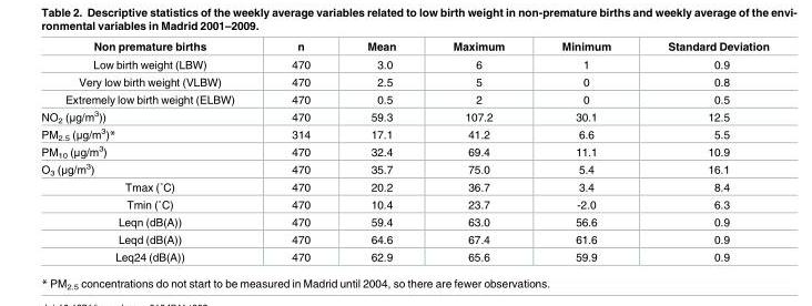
<table><thead><tr><td>Non premature births</td><td>n</td><td>Mean</td><td>Maximum</td><td>Minimum</td><td>Standard Deviation</td></tr></thead><tbody><tr><td>Low birth weight (LBW)</td><td>470</td><td>3.0</td><td>6</td><td>1</td><td>0.9</td></tr><tr><td>Very low birth weight (VLBW)</td><td>470</td><td>2.5</td><td>5</td><td>0</td><td>0.8</td></tr><tr><td>Extremely low birth weight (ELBW)</td><td>470</td><td>0.5</td><td>2</td><td>0</td><td>0.5</td></tr><tr><td>NO<sub>2</sub> (μg/m<sup>3</sup>))</td><td>470</td><td>59.3</td><td>107.2</td><td>30.1</td><td>12.5</td></tr><tr><td>PM<sub>2.5</sub> (μg/m<sup>3</sup>)*</td><td>314</td><td>17.1</td><td>41.2</td><td>6.6</td><td>5.5</td></tr><tr><td>PM<sub>10</sub> (μg/m<sup>3</sup>)</td><td>470</td><td>32.4</td><td>69.4</td><td>11.1</td><td>10.9</td></tr><tr><td>O<sub>3</sub> (μg/m<sup>3</sup>)</td><td>470</td><td>35.7</td><td>75.0</td><td>5.4</td><td>16.1</td></tr><tr><td>Tmax (˚C)</td><td>470</td><td>20.2</td><td>36.7</td><td>3.4</td><td>8.4</td></tr><tr><td>Tmin (˚C)</td><td>470</td><td>10.4</td><td>23.7</td><td>-2.0</td><td>6.3</td></tr><tr><td>Leqn (dB(A))</td><td>470</td><td>59.4</td><td>63.0</td><td>56.6</td><td>0.9</td></tr><tr><td>Leqd (dB(A))</td><td>470</td><td>64.6</td><td>67.4</td><td>61.6</td><td>0.9</td></tr><tr><td>Leq24 (dB(A))</td><td>470</td><td>62.9</td><td>65.6</td><td>59.9</td><td>0.9</td></tr></tbody></table>